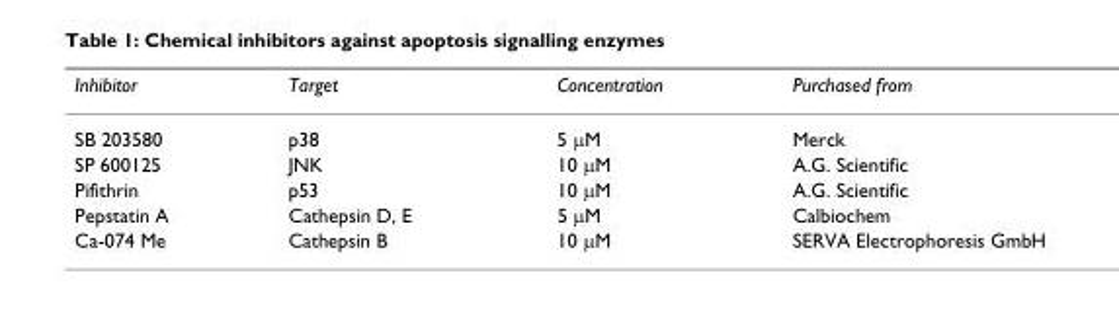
<table><thead><tr><td>Inhibitor</td><td>Target</td><td>Concentration</td><td>Purchased from</td></tr></thead><tbody><tr><td>SB 203580</td><td>p38</td><td>5 μM</td><td>Merck</td></tr><tr><td>SP 600125</td><td>JNK</td><td>10 μM</td><td>A.G. Scientific</td></tr><tr><td>Pifithrin</td><td>p53</td><td>10 μM</td><td>A.G. Scientific</td></tr><tr><td>Pepstatin A</td><td>Cathepsin D, E</td><td>5 μM</td><td>Calbiochem</td></tr><tr><td>Ca-074 Me</td><td>Cathepsin B</td><td>10 μM</td><td>SERVA Electrophoresis GmbH</td></tr></tbody></table>